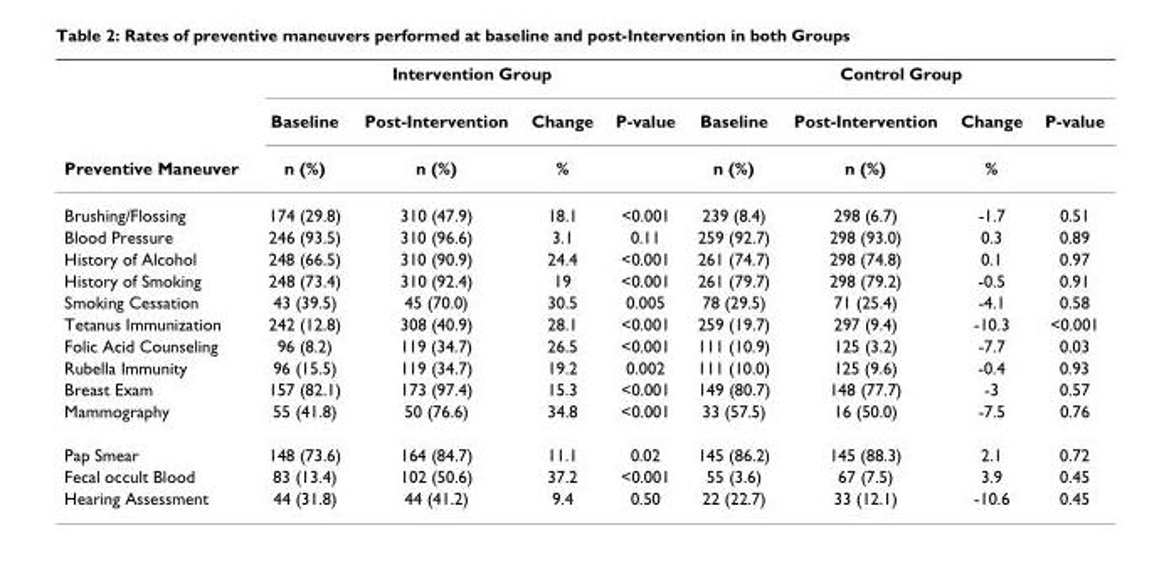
<table><thead><tr><td rowspan="3">Preventive Maneuver</td><td colspan="4">Intervention Group</td><td colspan="4">Control Group</td></tr><tr><td rowspan="2">Baseline n (%)</td><td rowspan="2">Post-Intervention n (%)</td><td rowspan="2">Change %</td><td rowspan="2">P-value</td><td rowspan="2">Baseline n (%)</td><td rowspan="2">Post-Intervention n (%)</td><td rowspan="2">Change %</td><td rowspan="2">P-value</td></tr><tr></tr></thead><tbody><tr><td>Brushing/Flossing</td><td>174 (29.8)</td><td>310 (47.9)</td><td>18.1</td><td>&lt;0.001</td><td>239 (8.4)</td><td>298 (6.7)</td><td>-1.7</td><td>0.51</td></tr><tr><td>Blood Pressure</td><td>246 (93.5)</td><td>310 (96.6)</td><td>3.1</td><td>0.11</td><td>259 (92.7)</td><td>298 (93.0)</td><td>0.3</td><td>0.89</td></tr><tr><td>History of Alcohol</td><td>248 (66.5)</td><td>310 (90.9)</td><td>24.4</td><td>&lt;0.001</td><td>261 (74.7)</td><td>298 (74.8)</td><td>0.1</td><td>0.97</td></tr><tr><td>History of Smoking</td><td>248 (73.4)</td><td>310 (92.4)</td><td>19</td><td>&lt;0.001</td><td>261 (79.7)</td><td>298 (79.2)</td><td>-0.5</td><td>0.91</td></tr><tr><td>Smoking Cessation</td><td>43 (39.5)</td><td>45 (70.0)</td><td>30.5</td><td>0.005</td><td>78 (29.5)</td><td>71 (25.4)</td><td>-4.1</td><td>0.58</td></tr><tr><td>Tetanus Immunization</td><td>242 (12.8)</td><td>308 (40.9)</td><td>28.1</td><td>&lt;0.001</td><td>259 (19.7)</td><td>297 (9.4)</td><td>-10.3</td><td>&lt;0.001</td></tr><tr><td>Folic Acid Counseling</td><td>96 (8.2)</td><td>119 (34.7)</td><td>26.5</td><td>&lt;0.001</td><td>111 (10.9)</td><td>125 (3.2)</td><td>-7.7</td><td>0.03</td></tr><tr><td>Rubella Immunity</td><td>96 (15.5)</td><td>119 (34.7)</td><td>19.2</td><td>0.002</td><td>111 (10.0)</td><td>125 (9.6)</td><td>-0.4</td><td>0.93</td></tr><tr><td>Breast Exam</td><td>157 (82.1)</td><td>173 (97.4)</td><td>15.3</td><td>&lt;0.001</td><td>149 (80.7)</td><td>148 (77.7)</td><td>-3</td><td>0.57</td></tr><tr><td>Mammography</td><td>55 (41.8)</td><td>50 (76.6)</td><td>34.8</td><td>&lt;0.001</td><td>33 (57.5)</td><td>16 (50.0)</td><td>-7.5</td><td>0.76</td></tr><tr><td>Pap Smear</td><td>148 (73.6)</td><td>164 (84.7)</td><td>11.1</td><td>0.02</td><td>145 (86.2)</td><td>145 (88.3)</td><td>2.1</td><td>0.72</td></tr><tr><td>Fecal occult Blood</td><td>83 (13.4)</td><td>102 (50.6)</td><td>37.2</td><td>&lt;0.001</td><td>55 (3.6)</td><td>67 (7.5)</td><td>3.9</td><td>0.45</td></tr><tr><td>Hearing Assessment</td><td>44 (31.8)</td><td>44 (41.2)</td><td>9.4</td><td>0.50</td><td>22 (22.7)</td><td>33 (12.1)</td><td>-10.6</td><td>0.45</td></tr></tbody></table>